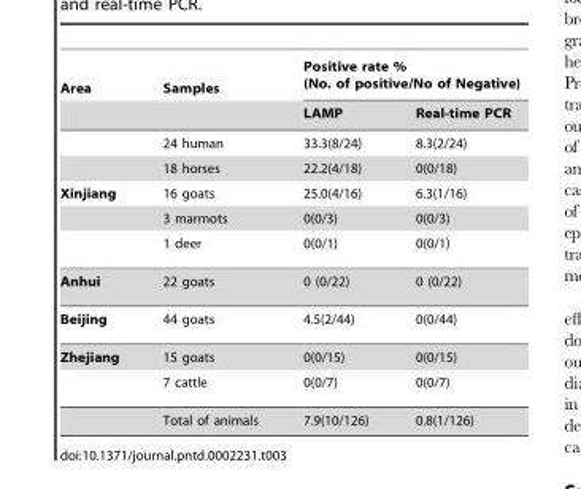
<table><thead><tr><td rowspan="2">Area</td><td rowspan="2">Samples</td><td colspan="2">Positive rate % (No. of positive/No of Negative)</td></tr><tr><td>LAMP</td><td>Real-time PCR</td></tr></thead><tbody><tr><td></td><td>24 human</td><td>33.3(8/24)</td><td>8.3(2/24)</td></tr><tr><td></td><td>18 horses</td><td>22.2(4/18)</td><td>0(0/18)</td></tr><tr><td rowspan="3">Xinjiang</td><td>16 goats</td><td>25.0(4/16)</td><td>6.3(1/16)</td></tr><tr><td>3 marmots</td><td>0(0/3)</td><td>0(0/3)</td></tr><tr><td>1 deer</td><td>0(0/1)</td><td>0(0/1)</td></tr><tr><td>Anhui</td><td>22 goats</td><td>0 (0/22)</td><td>0 (0/22)</td></tr><tr><td>Beijing</td><td>44 goats</td><td>4.5(2/44)</td><td>0(0/44)</td></tr><tr><td rowspan="3">Zhejiang</td><td>15 goats</td><td>0(0/15)</td><td>0(0/15)</td></tr><tr><td>7 cattle</td><td>0(0/7)</td><td>0(0/7)</td></tr><tr><td>Total of animals</td><td>7.9(10/126)</td><td>0.8(1/126)</td></tr></tbody></table>